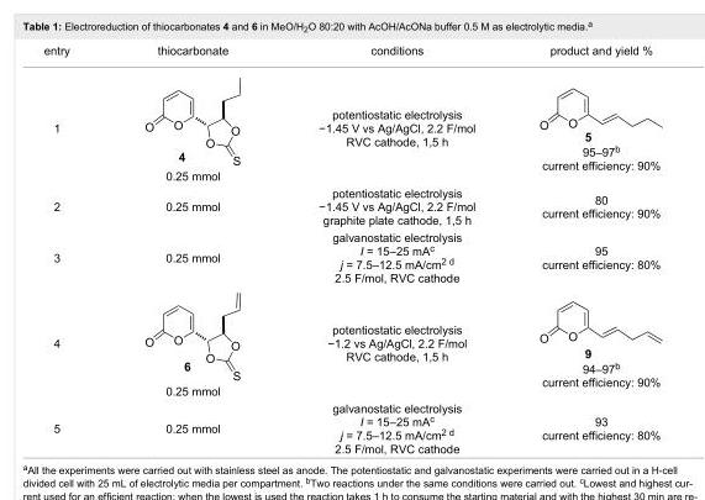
<table><tbody><tr><td>entry</td><td>thiocarbonate</td><td>conditions</td><td>product and yield %</td></tr><tr><td>1</td><td>0.25 mmol</td><td>potentiostatic electrolysis −1.45 V vs Ag/AgCl, 2.2 F/mol RVC cathode, 1,5 h</td><td>95–97b current efficiency: 90%</td></tr><tr><td>2</td><td>0.25 mmol</td><td>potentiostatic electrolysis −1.45 V vs Ag/AgCl, 2.2 F/mol graphite plate cathode, 1,5 h</td><td>80 current efficiency: 90%</td></tr><tr><td>3</td><td>0.25 mmol</td><td>galvanostatic electrolysis I = 15–25 mA<sup>c</sup> j = 7.5–12.5 mA/cm<sup>2 d</sup> 2.5 F/mol, RVC cathode</td><td>95 current efficiency: 80%</td></tr><tr><td>4</td><td>0.25 mmol</td><td>potentiostatic electrolysis −1.2 vs Ag/AgCl, 2.2 F/mol RVC cathode, 1,5 h</td><td>94–97b current efficiency: 90%</td></tr><tr><td>5</td><td>0.25 mmol</td><td>galvanostatic electrolysis I = 15–25 mA<sup>c</sup> j = 7.5–12.5 mA/cm<sup>2 d</sup> 2.5 F/mol, RVC cathode</td><td>93 current efficiency: 80%</td></tr></tbody></table>